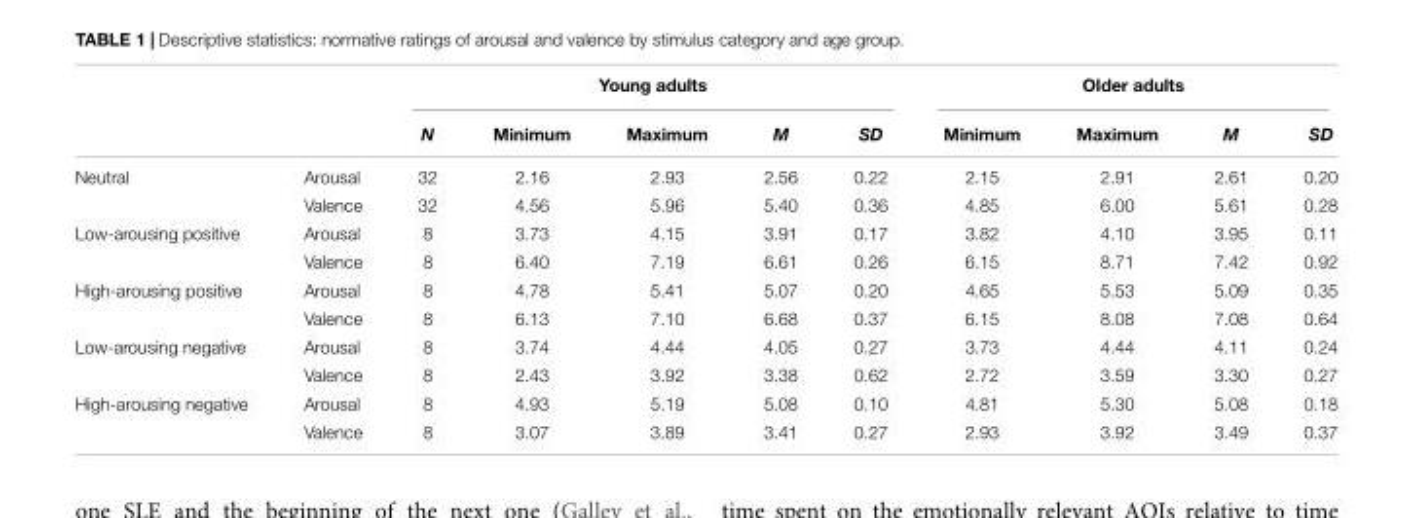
<table><thead><tr><td rowspan="2"></td><td rowspan="2"></td><td colspan="5">Young adults</td><td colspan="4">Older adults</td></tr><tr><td>N</td><td>Minimum</td><td>Maximum</td><td>M</td><td>SD</td><td>Minimum</td><td>Maximum</td><td>M</td><td>SD</td></tr></thead><tbody><tr><td rowspan="2">Neutral</td><td>Arousal</td><td>32</td><td>2.16</td><td>2.93</td><td>2.56</td><td>0.22</td><td>2.15</td><td>2.91</td><td>2.61</td><td>0.20</td></tr><tr><td>Valence</td><td>32</td><td>4.56</td><td>5.96</td><td>5.40</td><td>0.36</td><td>4.85</td><td>6.00</td><td>5.61</td><td>0.28</td></tr><tr><td rowspan="2">Low-arousing positive</td><td>Arousal</td><td>8</td><td>3.73</td><td>4.15</td><td>3.91</td><td>0.17</td><td>3.82</td><td>4.10</td><td>3.95</td><td>0.11</td></tr><tr><td>Valence</td><td>8</td><td>6.40</td><td>7.19</td><td>6.61</td><td>0.26</td><td>6.15</td><td>8.71</td><td>7.42</td><td>0.92</td></tr><tr><td rowspan="2">High-arousing positive</td><td>Arousal</td><td>8</td><td>4.78</td><td>5.41</td><td>5.07</td><td>0.20</td><td>4.65</td><td>5.53</td><td>5.09</td><td>0.35</td></tr><tr><td>Valence</td><td>8</td><td>6.13</td><td>7.10</td><td>6.68</td><td>0.37</td><td>6.15</td><td>8.08</td><td>7.08</td><td>0.64</td></tr><tr><td rowspan="2">Low-arousing negative</td><td>Arousal</td><td>8</td><td>3.74</td><td>4.44</td><td>4.05</td><td>0.27</td><td>3.73</td><td>4.44</td><td>4.11</td><td>0.24</td></tr><tr><td>Valence</td><td>8</td><td>2.43</td><td>3.92</td><td>3.38</td><td>0.62</td><td>2.72</td><td>3.59</td><td>3.30</td><td>0.27</td></tr><tr><td rowspan="2">High-arousing negative</td><td>Arousal</td><td>8</td><td>4.93</td><td>5.19</td><td>5.08</td><td>0.10</td><td>4.81</td><td>5.30</td><td>5.08</td><td>0.18</td></tr><tr><td>Valence</td><td>8</td><td>3.07</td><td>3.89</td><td>3.41</td><td>0.27</td><td>2.93</td><td>3.92</td><td>3.49</td><td>0.37</td></tr></tbody></table>